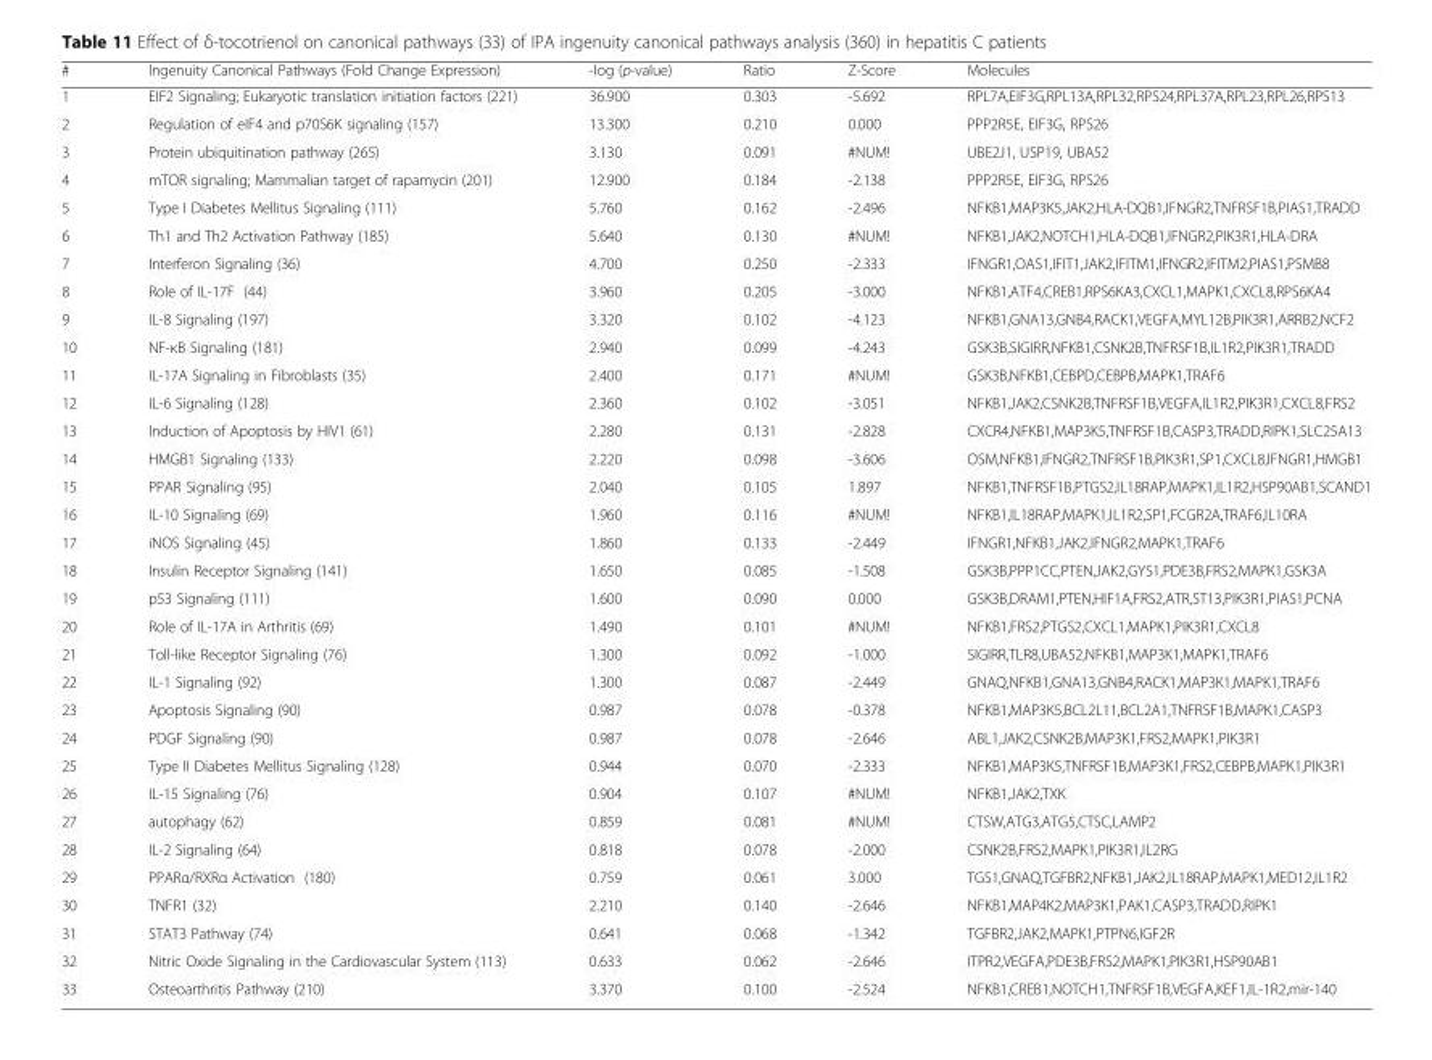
<table><thead><tr><td>#</td><td>Ingenuity Canonical Pathways (Fold Change Expression)</td><td>-log (p-value)</td><td>Ratio</td><td>Z-Score</td><td>Molecules</td></tr></thead><tbody><tr><td>1</td><td>EIF2 Signaling; Eukaryotic translation initiation factors (221)</td><td>36.900</td><td>0.303</td><td>-5.692</td><td>RPL7A,EIF3G,RPL13A,RPL32,RPS24,RPL37A,RPL23,RPL26,RPS13</td></tr><tr><td>2</td><td>Regulation of eIF4 and p70S6K signaling (157)</td><td>13.300</td><td>0.210</td><td>0.000</td><td>PPP2R5E, EIF3G, RPS26</td></tr><tr><td>3</td><td>Protein ubiquitination pathway (265)</td><td>3.130</td><td>0.091</td><td>#NUM!</td><td>UBE2J1, USP19, UBA52</td></tr><tr><td>4</td><td>mTOR signaling; Mammalian target of rapamycin (201)</td><td>12.900</td><td>0.184</td><td>-2.138</td><td>PPP2R5E, EIF3G, RPS26</td></tr><tr><td>5</td><td>Type I Diabetes Mellitus Signaling (111)</td><td>5.760</td><td>0.162</td><td>-2.496</td><td>NFKB1,MAP3K5,JAK2,HLA-DQB1,IFNGR2,TNFRSF1B,PIAS1,TRADD</td></tr><tr><td>6</td><td>Th1 and Th2 Activation Pathway (185)</td><td>5.640</td><td>0.130</td><td>#NUM!</td><td>NFKB1,JAK2,NOTCH1,HLA-DQB1,IFNGR2,PIK3R1,HLA-DRA</td></tr><tr><td>7</td><td>Interferon Signaling (36)</td><td>4.700</td><td>0.250</td><td>-2.333</td><td>IFNGR1,OAS1,IFIT1,JAK2,IFITM1,IFNGR2,IFITM2,PIAS1,PSMB8</td></tr><tr><td>8</td><td>Role of IL-17F (44)</td><td>3.960</td><td>0.205</td><td>-3.000</td><td>NFKB1,ATF4,CREB1,RPS6KA3,CXCL1,MAPK1,CXCL8,RPS6KA4</td></tr><tr><td>9</td><td>IL-8 Signaling (197)</td><td>3.320</td><td>0.102</td><td>-4.123</td><td>NFKB1,GNA13,GNB4,RACK1,VEGFA,MYL12B,PIK3R1,ARRB2,NCF2</td></tr><tr><td>10</td><td>NF-κB Signaling (181)</td><td>2.940</td><td>0.099</td><td>-4.243</td><td>GSK3B,SIGIRR,NFKB1,CSNK2B,TNFRSF1B,IL1R2,PIK3R1,TRADD</td></tr><tr><td>11</td><td>IL-17A Signaling in Fibroblasts (35)</td><td>2.400</td><td>0.171</td><td>#NUM!</td><td>GSK3B,NFKB1,CEBPD,CEBPB,MAPK1,TRAF6</td></tr><tr><td>12</td><td>IL-6 Signaling (128)</td><td>2.360</td><td>0.102</td><td>-3.051</td><td>NFKB1,JAK2,CSNK2B,TNFRSF1B,VEGFA,IL1R2,PIK3R1,CXCL8,FRS2</td></tr><tr><td>13</td><td>Induction of Apoptosis by HIV1 (61)</td><td>2.280</td><td>0.131</td><td>-2.828</td><td>CXCR4,NFKB1,MAP3K5,TNFRSF1B,CASP3,TRADD,RIPK1,SLC25A13</td></tr><tr><td>14</td><td>HMGB1 Signaling (133)</td><td>2.220</td><td>0.098</td><td>-3.606</td><td>OSM,NFKB1,IFNGR2,TNFRSF1B,PIK3R1,SP1,CXCL8,IFNGR1,HMGB1</td></tr><tr><td>15</td><td>PPAR Signaling (95)</td><td>2.040</td><td>0.105</td><td>1.897</td><td>NFKB1,TNFRSF1B,PTGS2,IL18RAP,MAPK1,IL1R2,HSP90AB1,SCAND1</td></tr><tr><td>16</td><td>IL-10 Signaling (69)</td><td>1.960</td><td>0.116</td><td>#NUM!</td><td>NFKB1,IL18RAP,MAPK1,IL1R2,SP1,FCGR2A,TRAF6,IL10RA</td></tr><tr><td>17</td><td>iNOS Signaling (45)</td><td>1.860</td><td>0.133</td><td>-2.449</td><td>IFNGR1,NFKB1,JAK2,IFNGR2,MAPK1,TRAF6</td></tr><tr><td>18</td><td>Insulin Receptor Signaling (141)</td><td>1.650</td><td>0.085</td><td>-1.508</td><td>GSK3B,PPP1CC,PTEN,JAK2,GYS1,PDE3B,FRS2,MAPK1,GSK3A</td></tr><tr><td>19</td><td>p53 Signaling (111)</td><td>1.600</td><td>0.090</td><td>0.000</td><td>GSK3B,DRAM1,PTEN,HIF1A,FRS2,ATR,ST13,PIK3R1,PIAS1,PCNA</td></tr><tr><td>20</td><td>Role of IL-17A in Arthritis (69)</td><td>1.490</td><td>0.101</td><td>#NUM!</td><td>NFKB1,FRS2,PTGS2,CXCL1,MAPK1,PIK3R1,CXCL8</td></tr><tr><td>21</td><td>Toll-like Receptor Signaling (76)</td><td>1.300</td><td>0.092</td><td>-1.000</td><td>SIGIRR,TLR8,UBA52,NFKB1,MAP3K1,MAPK1,TRAF6</td></tr><tr><td>22</td><td>IL-1 Signaling (92)</td><td>1.300</td><td>0.087</td><td>-2.449</td><td>GNAQ,NFKB1,GNA13,GNB4,RACK1,MAP3K1,MAPK1,TRAF6</td></tr><tr><td>23</td><td>Apoptosis Signaling (90)</td><td>0.987</td><td>0.078</td><td>-0.378</td><td>NFKB1,MAP3K5,BCL2L11,BCL2A1,TNFRSF1B,MAPK1,CASP3</td></tr><tr><td>24</td><td>PDGF Signaling (90)</td><td>0.987</td><td>0.078</td><td>-2.646</td><td>ABL1,JAK2,CSNK2B,MAP3K1,FRS2,MAPK1,PIK3R1</td></tr><tr><td>25</td><td>Type II Diabetes Mellitus Signaling (128)</td><td>0.944</td><td>0.070</td><td>-2.333</td><td>NFKB1,MAP3K5,TNFRSF1B,MAP3K1,FRS2,CEBPB,MAPK1,PIK3R1</td></tr><tr><td>26</td><td>IL-15 Signaling (76)</td><td>0.904</td><td>0.107</td><td>#NUM!</td><td>NFKB1,JAK2,TXK</td></tr><tr><td>27</td><td>autophagy (62)</td><td>0.859</td><td>0.081</td><td>#NUM!</td><td>CTSW,ATG3,ATG5,CTSC,LAMP2</td></tr><tr><td>28</td><td>IL-2 Signaling (64)</td><td>0.818</td><td>0.078</td><td>-2.000</td><td>CSNK2B,FRS2,MAPK1,PIK3R1,IL2RG</td></tr><tr><td>29</td><td>PPARα/RXRα Activation (180)</td><td>0.759</td><td>0.061</td><td>3.000</td><td>TGS1,GNAQ,TGFBR2,NFKB1,JAK2,IL18RAP,MAPK1,MED12,IL1R2</td></tr><tr><td>30</td><td>TNFR1 (32)</td><td>2.210</td><td>0.140</td><td>-2.646</td><td>NFKB1,MAP4K2,MAP3K1,PAK1,CASP3,TRADD,RIPK1</td></tr><tr><td>31</td><td>STAT3 Pathway (74)</td><td>0.641</td><td>0.068</td><td>-1.342</td><td>TGFBR2,JAK2,MAPK1,PTPN6,IGF2R</td></tr><tr><td>32</td><td>Nitric Oxide Signaling in the Cardiovascular System (113)</td><td>0.633</td><td>0.062</td><td>-2.646</td><td>ITPR2,VEGFA,PDE3B,FRS2,MAPK1,PIK3R1,HSP90AB1</td></tr><tr><td>33</td><td>Osteoarthritis Pathway (210)</td><td>3.370</td><td>0.100</td><td>-2.524</td><td>NFKB1,CREB1,NOTCH1,TNFRSF1B,VEGFA,KEF1,IL-1R2,mir-140</td></tr></tbody></table>